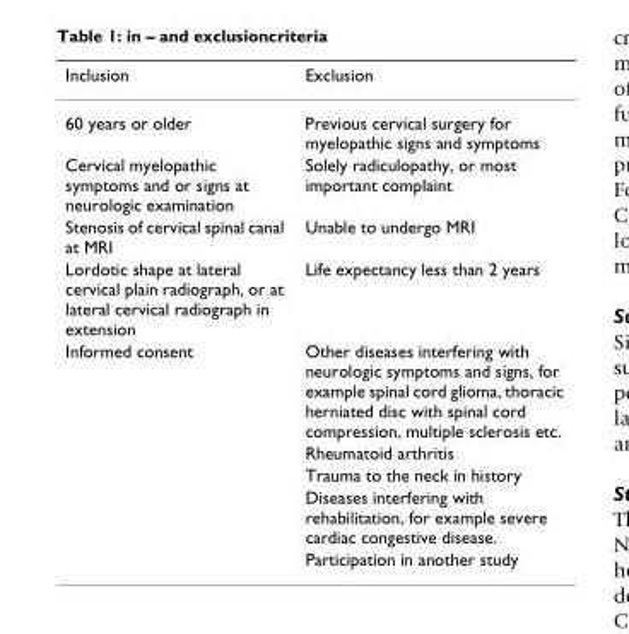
<table><thead><tr><td>Inclusion</td><td>Exclusion</td></tr></thead><tbody><tr><td>60 years or older</td><td>Previous cervical surgery for myelopathic signs and symptoms</td></tr><tr><td>Cervical myelopathic symptoms and or signs at neurologic examination</td><td>Solely radiculopathy, or most important complaint</td></tr><tr><td>Stenosis of cervical spinal canal at MRI</td><td>Unable to undergo MRI</td></tr><tr><td>Lordotic shape at lateral cervical plain radiograph, or at lateral cervical radiograph in extension</td><td>Life expectancy less than 2 years</td></tr><tr><td rowspan="5">Informed consent</td><td>Other diseases interfering with neurologic symptoms and signs, for example spinal cord glioma, thoracic herniated disc with spinal cord compression, multiple sclerosis etc.</td></tr><tr><td>Rheumatoid arthritis</td></tr><tr><td>Trauma to the neck in history</td></tr><tr><td>Diseases interfering with rehabilitation, for example severe cardiac congestive disease.</td></tr><tr><td>Participation in another study</td></tr></tbody></table>